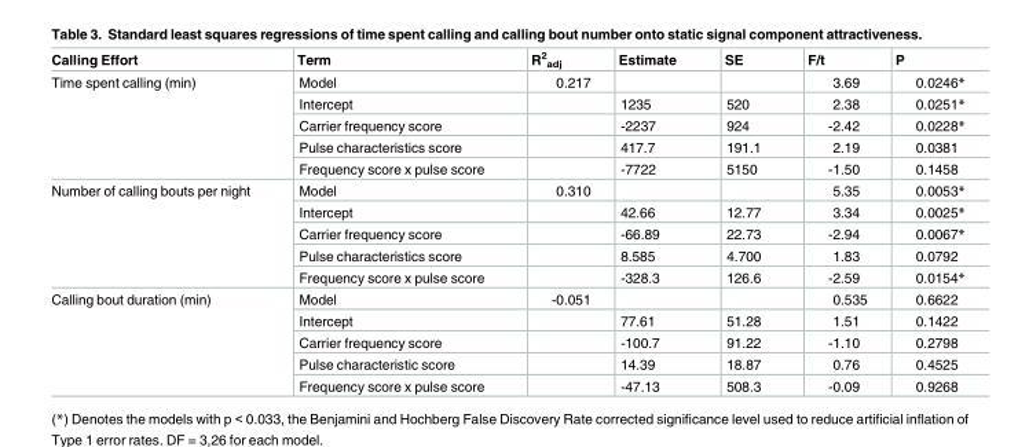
<table><thead><tr><td>Calling Effort</td><td>Term</td><td>R<sup>2</sup> <sub>adj</sub></td><td>Estimate</td><td>SE</td><td>F/t</td><td>P</td></tr></thead><tbody><tr><td rowspan="5">Time spent calling (min)</td><td>Model</td><td>0.217</td><td></td><td></td><td>3.69</td><td>0.0246*</td></tr><tr><td>Intercept</td><td></td><td>1235</td><td>520</td><td>2.38</td><td>0.0251*</td></tr><tr><td>Carrier frequency score</td><td></td><td>-2237</td><td>924</td><td>-2.42</td><td>0.0228*</td></tr><tr><td>Pulse characteristics score</td><td></td><td>417.7</td><td>191.1</td><td>2.19</td><td>0.0381</td></tr><tr><td>Frequency score x pulse score</td><td></td><td>-7722</td><td>5150</td><td>-1.50</td><td>0.1458</td></tr><tr><td rowspan="5">Number of calling bouts per night</td><td>Model</td><td>0.310</td><td></td><td></td><td>5.35</td><td>0.0053*</td></tr><tr><td>Intercept</td><td></td><td>42.66</td><td>12.77</td><td>3.34</td><td>0.0025*</td></tr><tr><td>Carrier frequency score</td><td></td><td>-66.89</td><td>22.73</td><td>-2.94</td><td>0.0067*</td></tr><tr><td>Pulse characteristics score</td><td></td><td>8.585</td><td>4.700</td><td>1.83</td><td>0.0792</td></tr><tr><td>Frequency score x pulse score</td><td></td><td>-328.3</td><td>126.6</td><td>-2.59</td><td>0.0154*</td></tr><tr><td rowspan="5">Calling bout duration (min)</td><td>Model</td><td>-0.051</td><td></td><td></td><td>0.535</td><td>0.6622</td></tr><tr><td>Intercept</td><td></td><td>77.61</td><td>51.28</td><td>1.51</td><td>0.1422</td></tr><tr><td>Carrier frequency score</td><td></td><td>-100.7</td><td>91.22</td><td>-1.10</td><td>0.2798</td></tr><tr><td>Pulse characteristic score</td><td></td><td>14.39</td><td>18.87</td><td>0.76</td><td>0.4525</td></tr><tr><td>Frequency score x pulse score</td><td></td><td>-47.13</td><td>508.3</td><td>-0.09</td><td>0.9268</td></tr></tbody></table>